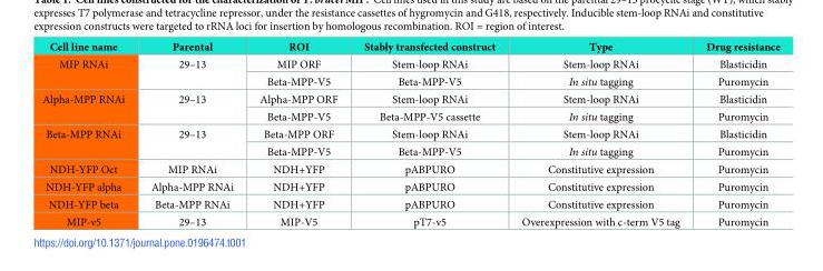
<table><thead><tr><td>Cell line name</td><td>Parental</td><td>ROI</td><td>Stably transfected construct</td><td>Type</td><td>Drug resistance</td></tr></thead><tbody><tr><td rowspan="2">MIP RNAi</td><td rowspan="2">29–13</td><td>MIP ORF</td><td>Stem-loop RNAi</td><td>Stem-loop RNAi</td><td>Blasticidin</td></tr><tr><td>Beta-MPP-V5</td><td>Beta-MPP-V5</td><td>In situ tagging</td><td>Puromycin</td></tr><tr><td rowspan="2">Alpha-MPP RNAi</td><td rowspan="2">29–13</td><td>Alpha-MPP ORF</td><td>Stem-loop RNAi</td><td>Stem-loop RNAi</td><td>Blasticidin</td></tr><tr><td>Beta-MPP-V5</td><td>Beta-MPP-V5 cassette</td><td>In situ tagging</td><td>Puromycin</td></tr><tr><td rowspan="2">Beta-MPP RNAi</td><td rowspan="2">29–13</td><td>Beta-MPP ORF</td><td>Stem-loop RNAi</td><td>Stem-loop RNAi</td><td>Blasticidin</td></tr><tr><td>Beta-MPP-V5</td><td>Beta-MPP-V5</td><td>In situ tagging</td><td>Puromycin</td></tr><tr><td>NDH-YFP Oct</td><td>MIP RNAi</td><td>NDH+YFP</td><td>pABPURO</td><td>Constitutive expression</td><td>Puromycin</td></tr><tr><td>NDH-YFP alpha</td><td>Alpha-MPP RNAi</td><td>NDH+YFP</td><td>pABPURO</td><td>Constitutive expression</td><td>Puromycin</td></tr><tr><td>NDH-YFP beta</td><td>Beta-MPP RNAi</td><td>NDH+YFP</td><td>pABPURO</td><td>Constitutive expression</td><td>Puromycin</td></tr><tr><td>MIP-v5</td><td>29–13</td><td>MIP-V5</td><td>pT7-v5</td><td>Overexpression with c-term V5 tag</td><td>Puromycin</td></tr></tbody></table>